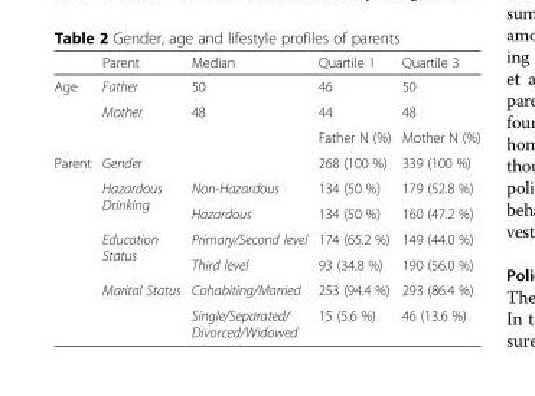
<table><thead><tr><td></td><td>Parent</td><td>Median</td><td>Quartile 1</td><td>Quartile 3</td></tr></thead><tbody><tr><td rowspan="3">Age</td><td>Father</td><td>50</td><td>46</td><td>50</td></tr><tr><td>Mother</td><td>48</td><td>44</td><td>48</td></tr><tr><td></td><td></td><td>Father N (%)</td><td>Mother N (%)</td></tr><tr><td rowspan="7">Parent</td><td>Gender</td><td></td><td>268 (100 %)</td><td>339 (100 %)</td></tr><tr><td rowspan="2">Hazardous Drinking</td><td>Non-Hazardous</td><td>134 (50 %)</td><td>179 (52.8 %)</td></tr><tr><td>Hazardous</td><td>134 (50 %)</td><td>160 (47.2 %)</td></tr><tr><td rowspan="2">Education Status</td><td>Primary/Second level</td><td>174 (65.2 %)</td><td>149 (44.0 %)</td></tr><tr><td>Third level</td><td>93 (34.8 %)</td><td>190 (56.0 %)</td></tr><tr><td rowspan="2">Marital Status</td><td>Cohabiting/Married</td><td>253 (94.4 %)</td><td>293 (86.4 %)</td></tr><tr><td>Single/Separated/ Divorced/Widowed</td><td>15 (5.6 %)</td><td>46 (13.6 %)</td></tr></tbody></table>